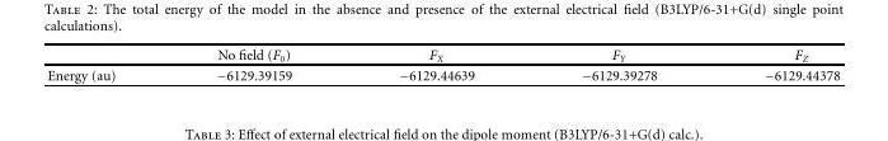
<table><thead><tr><td></td><td>No field (F<sub>0</sub>)</td><td>F<sub>X</sub></td><td>F<sub>Y</sub></td><td>F<sub>Z</sub></td></tr></thead><tbody><tr><td>Energy (au)</td><td>−6129.39159</td><td>−6129.44639</td><td>−6129.39278</td><td>−6129.44378</td></tr></tbody></table>